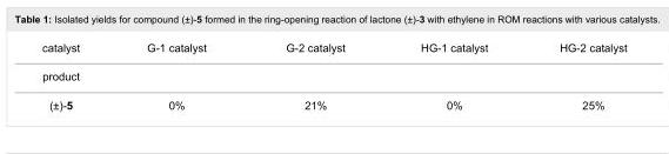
<table><tbody><tr><td>catalyst</td><td>G-1 catalyst</td><td>G-2 catalyst</td><td>HG-1 catalyst</td><td>HG-2 catalyst</td></tr><tr><td colspan="5">product</td></tr><tr><td>(±)-5</td><td>0%</td><td>21%</td><td>0%</td><td>25%</td></tr></tbody></table>